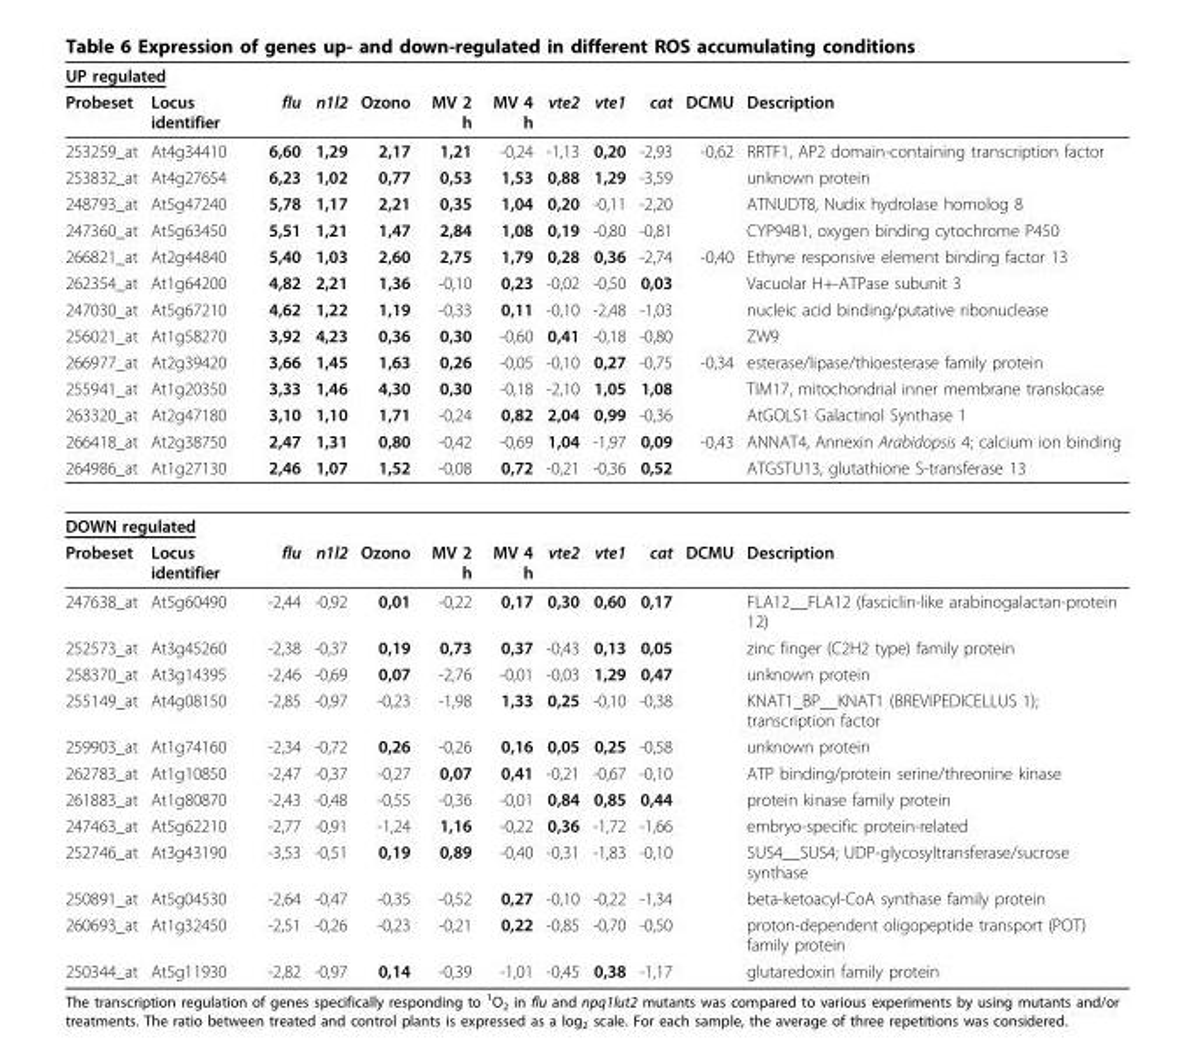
<table><thead><tr><td colspan="2">UP regulated</td><td rowspan="2">flu</td><td rowspan="2">n1l2</td><td rowspan="2">Ozono</td><td rowspan="2">MV 2 h</td><td rowspan="2">MV 4 h</td><td rowspan="2">vte2</td><td rowspan="2">vte1</td><td rowspan="2">cat</td><td rowspan="2">DCMU</td><td rowspan="2">Description</td></tr><tr><td>Probeset</td><td>Locus identifier</td></tr></thead><tbody><tr><td>253259_at</td><td>At4g34410</td><td>6,60</td><td>1,29</td><td>2,17</td><td>1,21</td><td>-0,24</td><td>-1,13</td><td>0,20</td><td>-2,93</td><td>-0,62</td><td>RRTF1, AP2 domain-containing transcription factor</td></tr><tr><td>253832_at</td><td>At4g27654</td><td>6,23</td><td>1,02</td><td>0,77</td><td>0,53</td><td>1,53</td><td>0,88</td><td>1,29</td><td>-3,59</td><td></td><td>unknown protein</td></tr><tr><td>248793_at</td><td>At5g47240</td><td>5,78</td><td>1,17</td><td>2,21</td><td>0,35</td><td>1,04</td><td>0,20</td><td>-0,11</td><td>-2,20</td><td></td><td>ATNUDT8, Nudix hydrolase homolog 8</td></tr><tr><td>247360_at</td><td>At5g63450</td><td>5,51</td><td>1,21</td><td>1,47</td><td>2,84</td><td>1,08</td><td>0,19</td><td>-0,80</td><td>-0,81</td><td></td><td>CYP94B1, oxygen binding cytochrome P450</td></tr><tr><td>266821_at</td><td>At2g44840</td><td>5,40</td><td>1,03</td><td>2,60</td><td>2,75</td><td>1,79</td><td>0,28</td><td>0,36</td><td>-2,74</td><td>-0,40</td><td>Ethyne responsive element binding factor 13</td></tr><tr><td>262354_at</td><td>At1g64200</td><td>4,82</td><td>2,21</td><td>1,36</td><td>-0,10</td><td>0,23</td><td>-0,02</td><td>-0,50</td><td>0,03</td><td></td><td>Vacuolar H+-ATPase subunit 3</td></tr><tr><td>247030_at</td><td>At5g67210</td><td>4,62</td><td>1,22</td><td>1,19</td><td>-0,33</td><td>0,11</td><td>-0,10</td><td>-2,48</td><td>-1,03</td><td></td><td>nucleic acid binding/putative ribonuclease</td></tr><tr><td>256021_at</td><td>At1g58270</td><td>3,92</td><td>4,23</td><td>0,36</td><td>0,30</td><td>-0,60</td><td>0,41</td><td>-0,18</td><td>-0,80</td><td></td><td>ZW9</td></tr><tr><td>266977_at</td><td>At2g39420</td><td>3,66</td><td>1,45</td><td>1,63</td><td>0,26</td><td>-0,05</td><td>-0,10</td><td>0,27</td><td>-0,75</td><td>-0,34</td><td>esterase/lipase/thioesterase family protein</td></tr><tr><td>255941_at</td><td>At1g20350</td><td>3,33</td><td>1,46</td><td>4,30</td><td>0,30</td><td>-0,18</td><td>-2,10</td><td>1,05</td><td>1,08</td><td></td><td>TIM17, mitochondrial inner membrane translocase</td></tr><tr><td>263320_at</td><td>At2g47180</td><td>3,10</td><td>1,10</td><td>1,71</td><td>-0,24</td><td>0,82</td><td>2,04</td><td>0,99</td><td>-0,36</td><td></td><td>AtGOLS1 Galactinol Synthase 1</td></tr><tr><td>266418_at</td><td>At2g38750</td><td>2,47</td><td>1,31</td><td>0,80</td><td>-0,42</td><td>-0,69</td><td>1,04</td><td>-1,97</td><td>0,09</td><td>-0,43</td><td>ANNAT4, Annexin Arabidopsis 4; calcium ion binding</td></tr><tr><td>264986_at</td><td>At1g27130</td><td>2,46</td><td>1,07</td><td>1,52</td><td>-0,08</td><td>0,72</td><td>-0,21</td><td>-0,36</td><td>0,52</td><td></td><td>ATGSTU13, glutathione S-transferase 13</td></tr><tr><td colspan="12">DOWN regulated</td></tr><tr><td>Probeset</td><td>Locus identifier</td><td>flu</td><td>n1l2</td><td>Ozono</td><td>MV 2 h</td><td>MV 4 h</td><td>vte2</td><td>vte1</td><td>cat</td><td>DCMU</td><td>Description</td></tr><tr><td>247638_at</td><td>At5g60490</td><td>-2,44</td><td>-0,92</td><td>0,01</td><td>-0,22</td><td>0,17</td><td>0,30</td><td>0,60</td><td>0,17</td><td></td><td>FLA12__FLA12 (fasciclin-like arabinogalactan-protein 12)</td></tr><tr><td>252573_at</td><td>At3g45260</td><td>-2,38</td><td>-0,37</td><td>0,19</td><td>0,73</td><td>0,37</td><td>-0,43</td><td>0,13</td><td>0,05</td><td></td><td>zinc finger (C2H2 type) family protein</td></tr><tr><td>258370_at</td><td>At3g14395</td><td>-2,46</td><td>-0,69</td><td>0,07</td><td>-2,76</td><td>-0,01</td><td>-0,03</td><td>1,29</td><td>0,47</td><td></td><td>unknown protein</td></tr><tr><td>255149_at</td><td>At4g08150</td><td>-2,85</td><td>-0,97</td><td>-0,23</td><td>-1,98</td><td>1,33</td><td>0,25</td><td>-0,10</td><td>-0,38</td><td></td><td>KNAT1_BP__KNAT1 (BREVIPEDICELLUS 1); transcription factor</td></tr><tr><td>259903_at</td><td>At1g74160</td><td>-2,34</td><td>-0,72</td><td>0,26</td><td>-0,26</td><td>0,16</td><td>0,05</td><td>0,25</td><td>-0,58</td><td></td><td>unknown protein</td></tr><tr><td>262783_at</td><td>At1g10850</td><td>-2,47</td><td>-0,37</td><td>-0,27</td><td>0,07</td><td>0,41</td><td>-0,21</td><td>-0,67</td><td>-0,10</td><td></td><td>ATP binding/protein serine/threonine kinase</td></tr><tr><td>261883_at</td><td>At1g80870</td><td>-2,43</td><td>-0,48</td><td>-0,55</td><td>-0,36</td><td>-0,01</td><td>0,84</td><td>0,85</td><td>0,44</td><td></td><td>protein kinase family protein</td></tr><tr><td>247463_at</td><td>At5g62210</td><td>-2,77</td><td>-0,91</td><td>-1,24</td><td>1,16</td><td>-0,22</td><td>0,36</td><td>-1,72</td><td>-1,66</td><td></td><td>embryo-specific protein-related</td></tr><tr><td>252746_at</td><td>At3g43190</td><td>-3,53</td><td>-0,51</td><td>0,19</td><td>0,89</td><td>-0,40</td><td>-0,31</td><td>-1,83</td><td>-0,10</td><td></td><td>SUS4__SUS4; UDP-glycosyltransferase/sucrose synthase</td></tr><tr><td>250891_at</td><td>At5g04530</td><td>-2,64</td><td>-0,47</td><td>-0,35</td><td>-0,52</td><td>0,27</td><td>-0,10</td><td>-0,22</td><td>-1,34</td><td></td><td>beta-ketoacyl-CoA synthase family protein</td></tr><tr><td>260693_at</td><td>At1g32450</td><td>-2,51</td><td>-0,26</td><td>-0,23</td><td>-0,21</td><td>0,22</td><td>-0,85</td><td>-0,70</td><td>-0,50</td><td></td><td>proton-dependent oligopeptide transport (POT) family protein</td></tr><tr><td>250344_at</td><td>At5g11930</td><td>-2,82</td><td>-0,97</td><td>0,14</td><td>-0,39</td><td>-1,01</td><td>-0,45</td><td>0,38</td><td>-1,17</td><td></td><td>glutaredoxin family protein</td></tr></tbody></table>